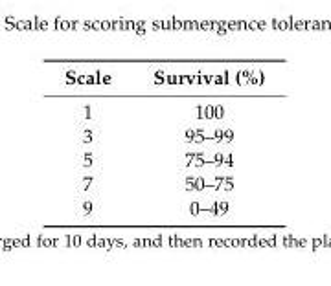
<table><thead><tr><td>Scale</td><td>Survival (%)</td></tr></thead><tbody><tr><td>1</td><td>100</td></tr><tr><td>3</td><td>95–99</td></tr><tr><td>5</td><td>75–94</td></tr><tr><td>7</td><td>50–75</td></tr><tr><td>9</td><td>0–49</td></tr></tbody></table>